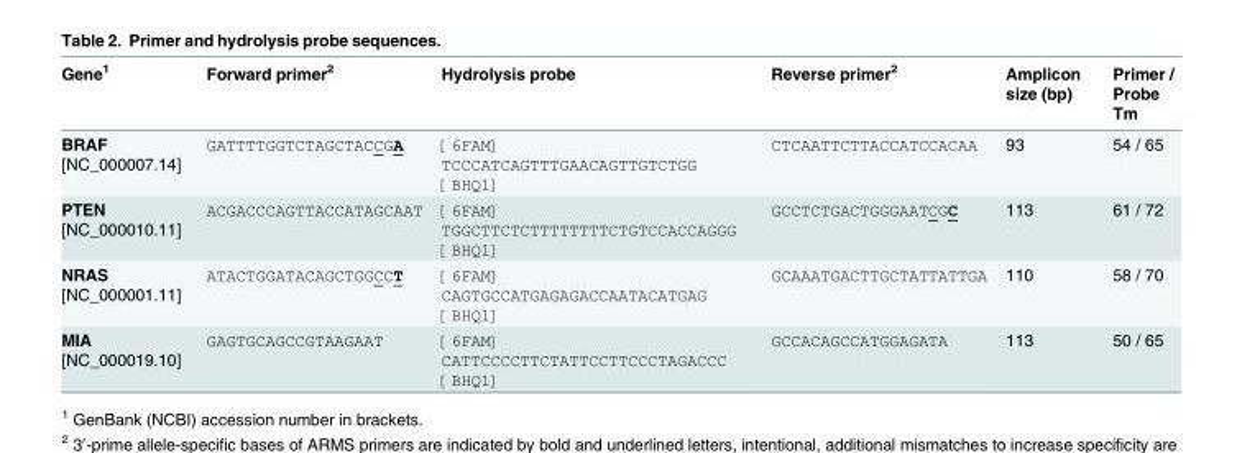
<table><thead><tr><td>Gene<sup>1</sup></td><td>Forward primer<sup>2</sup></td><td>Hydrolysis probe</td><td>Reverse primer<sup>2</sup></td><td>Amplicon size (bp)</td><td>Primer / Probe Tm</td></tr></thead><tbody><tr><td>BRAF [NC_000007.14]</td><td>GATTTTGGTCTAGCTACCGA</td><td>[6FAM] TCCCATCAGTTTGAACAGTTGTCTGG [BHQ1]</td><td>CTCAATTCTTACCATCCACAA</td><td>93</td><td>54 / 65</td></tr><tr><td>PTEN [NC_000010.11]</td><td>ACGACCCAGTTACCATAGCAAT</td><td>[6FAM] TGGCTTCTCTTTTTTTTCTGTCCACCAGGG [BHQ1]</td><td>GCCTCTGACTGGGAATCGC</td><td>113</td><td>61 / 72</td></tr><tr><td>NRAS [NC_000001.11]</td><td>ATACTGGATACAGCTGGCCT</td><td>[6FAM] CAGTGCCATGAGAGACCAATACATGAG [BHQ1]</td><td>GCAAATGACTTGCTATTATTGA</td><td>110</td><td>58 / 70</td></tr><tr><td>MIA [NC_000019.10]</td><td>GAGTGCAGCCGTAAGAAT</td><td>[6FAM] CATTCCCCTTCTATTCCTTCCCTAGACCC [BHQ1]</td><td>GCCACAGCCATGGAGATA</td><td>113</td><td>50 / 65</td></tr></tbody></table>